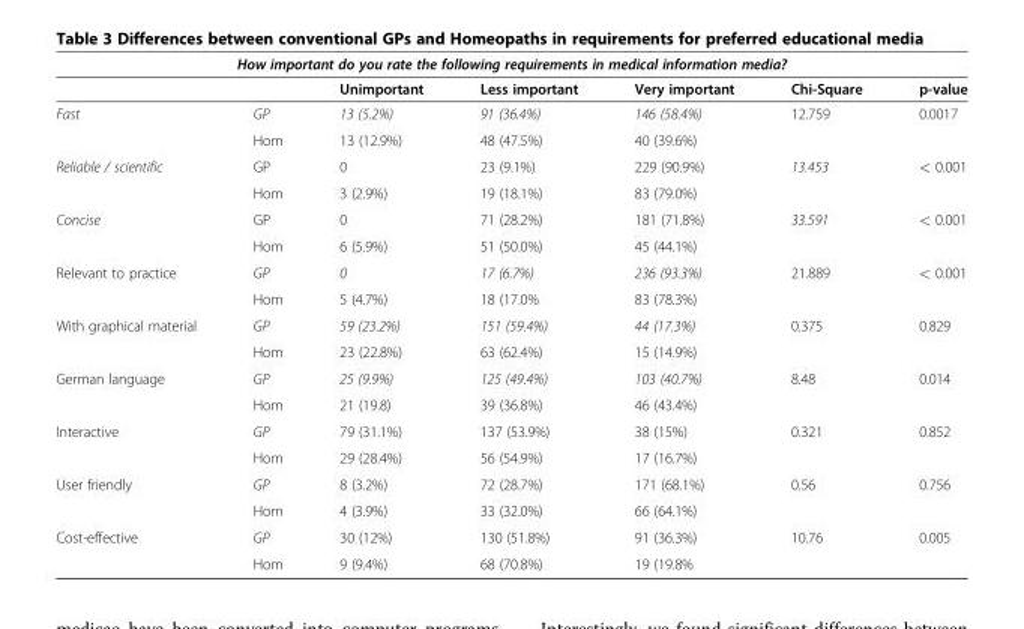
<table><thead><tr><td colspan="7">How important do you rate the following requirements in medical information media?</td></tr><tr><td></td><td></td><td>Unimportant</td><td>Less important</td><td>Very important</td><td>Chi-Square</td><td>p-value</td></tr></thead><tbody><tr><td rowspan="2">Fast</td><td>GP</td><td>13 (5.2%)</td><td>91 (36.4%)</td><td>146 (58.4%)</td><td>12.759</td><td>0.0017</td></tr><tr><td>Hom</td><td>13 (12.9%)</td><td>48 (47.5%)</td><td>40 (39.6%)</td><td></td><td></td></tr><tr><td rowspan="2">Reliable / scientific</td><td>GP</td><td>0</td><td>23 (9.1%)</td><td>229 (90.9%)</td><td>13.453</td><td>&lt; 0.001</td></tr><tr><td>Hom</td><td>3 (2.9%)</td><td>19 (18.1%)</td><td>83 (79.0%)</td><td></td><td></td></tr><tr><td rowspan="2">Concise</td><td>GP</td><td>0</td><td>71 (28.2%)</td><td>181 (71.8%)</td><td>33.591</td><td>&lt; 0.001</td></tr><tr><td>Hom</td><td>6 (5.9%)</td><td>51 (50.0%)</td><td>45 (44.1%)</td><td></td><td></td></tr><tr><td rowspan="2">Relevant to practice</td><td>GP</td><td>0</td><td>17 (6.7%)</td><td>236 (93.3%)</td><td>21.889</td><td>&lt; 0.001</td></tr><tr><td>Hom</td><td>5 (4.7%)</td><td>18 (17.0%</td><td>83 (78.3%)</td><td></td><td></td></tr><tr><td rowspan="2">With graphical material</td><td>GP</td><td>59 (23.2%)</td><td>151 (59.4%)</td><td>44 (17.3%)</td><td>0.375</td><td>0.829</td></tr><tr><td>Hom</td><td>23 (22.8%)</td><td>63 (62.4%)</td><td>15 (14.9%)</td><td></td><td></td></tr><tr><td rowspan="2">German language</td><td>GP</td><td>25 (9.9%)</td><td>125 (49.4%)</td><td>103 (40.7%)</td><td>8.48</td><td>0.014</td></tr><tr><td>Hom</td><td>21 (19.8)</td><td>39 (36.8%)</td><td>46 (43.4%)</td><td></td><td></td></tr><tr><td rowspan="2">Interactive</td><td>GP</td><td>79 (31.1%)</td><td>137 (53.9%)</td><td>38 (15%)</td><td>0.321</td><td>0.852</td></tr><tr><td>Hom</td><td>29 (28.4%)</td><td>56 (54.9%)</td><td>17 (16.7%)</td><td></td><td></td></tr><tr><td rowspan="2">User friendly</td><td>GP</td><td>8 (3.2%)</td><td>72 (28.7%)</td><td>171 (68.1%)</td><td>0.56</td><td>0.756</td></tr><tr><td>Hom</td><td>4 (3.9%)</td><td>33 (32.0%)</td><td>66 (64.1%)</td><td></td><td></td></tr><tr><td rowspan="2">Cost-effective</td><td>GP</td><td>30 (12%)</td><td>130 (51.8%)</td><td>91 (36.3%)</td><td>10.76</td><td>0.005</td></tr><tr><td>Hom</td><td>9 (9.4%)</td><td>68 (70.8%)</td><td>19 (19.8%</td><td></td><td></td></tr></tbody></table>